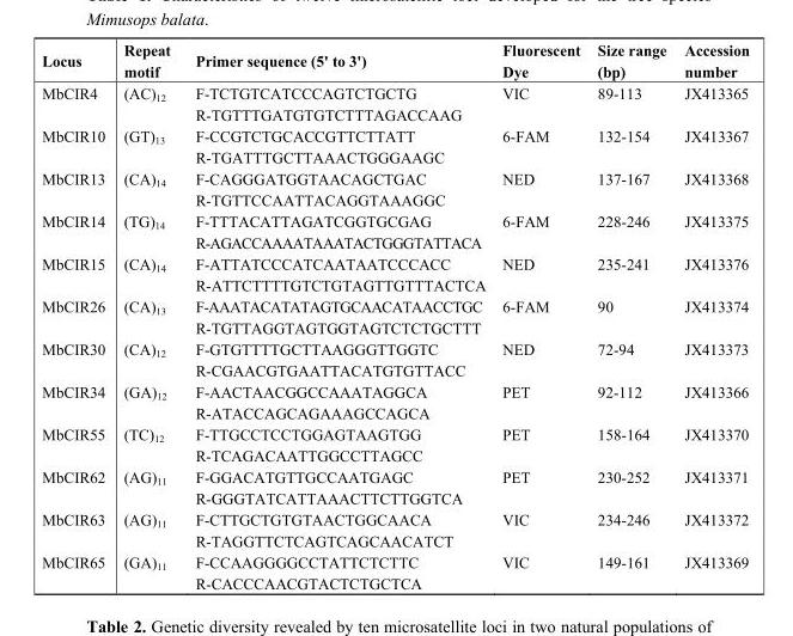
<table><thead><tr><td>Locus</td><td>Repeat motif</td><td>Primer sequence (5&#x27; to 3&#x27;)</td><td>Fluorescent Dye</td><td>Size range (bp)</td><td>Accession number</td></tr></thead><tbody><tr><td rowspan="2">MbCIR4</td><td rowspan="2">(AC)<sub>12</sub></td><td>F-TCTGTCATCCCAGTCTGCTG</td><td>VIC</td><td>89-113</td><td rowspan="2">JX413365</td></tr><tr><td>R-TGTTTGATGTGTCTTTAGACCAAG</td><td></td><td></td></tr><tr><td rowspan="2">MbCIR10</td><td rowspan="2">(GT)<sub>13</sub></td><td>F-CCGTCTGCACCGTTCTTATT</td><td>6-FAM</td><td>132-154</td><td rowspan="2">JX413367</td></tr><tr><td>R-TGATTTGCTTAAACTGGGAAGC</td><td></td><td></td></tr><tr><td rowspan="2">MbCIR13</td><td rowspan="2">(CA)<sub>14</sub></td><td>F-CAGGGATGGTAACAGCTGAC</td><td>NED</td><td>137-167</td><td rowspan="2">JX413368</td></tr><tr><td>R-TGTTCCAATTACAGGTAAAGGC</td><td></td><td></td></tr><tr><td rowspan="2">MbCIR14</td><td rowspan="2">(TG)<sub>14</sub></td><td>F-TTTACATTAGATCGGTGCGAG</td><td>6-FAM</td><td>228-246</td><td rowspan="2">JX413375</td></tr><tr><td>R-AGACCAAAATAAATACTGGGTATTACA</td><td></td><td></td></tr><tr><td rowspan="2">MbCIR15</td><td rowspan="2">(CA)<sub>14</sub></td><td>F-ATTATCCCATCAATAATCCCACC</td><td>NED</td><td>235-241</td><td rowspan="2">JX413376</td></tr><tr><td>R-ATTCTTTTGTCTGTAGTTGTTTACTCA</td><td></td><td></td></tr><tr><td rowspan="2">MbCIR26</td><td rowspan="2">(CA)<sub>13</sub></td><td>F-AAATACATATAGTGCAACATAACCTGC</td><td>6-FAM</td><td>90</td><td rowspan="2">JX413374</td></tr><tr><td>R-TGTTAGGTAGTGGTAGTCTCTGCTTT</td><td></td><td></td></tr><tr><td rowspan="2">MbCIR30</td><td rowspan="2">(CA)<sub>12</sub></td><td>F-GTGTTTTGCTTAAGGGTTGGTC</td><td>NED</td><td>72-94</td><td rowspan="2">JX413373</td></tr><tr><td>R-CGAACGTGAATTACATGTGTTACC</td><td></td><td></td></tr><tr><td rowspan="2">MbCIR34</td><td rowspan="2">(GA)<sub>12</sub></td><td>F-AACTAACGGCCAAATAGGCA</td><td>PET</td><td>92-112</td><td rowspan="2">JX413366</td></tr><tr><td>R-ATACCAGCAGAAAGCCAGCA</td><td></td><td></td></tr><tr><td rowspan="2">MbCIR55</td><td rowspan="2">(TC)<sub>12</sub></td><td>F-TTGCCTCCTGGAGTAAGTGG</td><td>PET</td><td>158-164</td><td rowspan="2">JX413370</td></tr><tr><td>R-TCAGACAATTGGCCTTAGCC</td><td></td><td></td></tr><tr><td rowspan="2">MbCIR62</td><td rowspan="2">(AG)<sub>11</sub></td><td>F-GGACATGTTGCCAATGAGC</td><td>PET</td><td>230-252</td><td rowspan="2">JX413371</td></tr><tr><td>R-GGGTATCATTAAACTTCTTGGTCA</td><td></td><td></td></tr><tr><td rowspan="2">MbCIR63</td><td rowspan="2">(AG)<sub>11</sub></td><td>F-CTTGCTGTGTAACTGGCAACA</td><td>VIC</td><td>234-246</td><td rowspan="2">JX413372</td></tr><tr><td>R-TAGGTTCTCAGTCAGCAACATCT</td><td></td><td></td></tr><tr><td rowspan="2">MbCIR65</td><td rowspan="2">(GA)<sub>11</sub></td><td>F-CCAAGGGGCCTATTCTCTTC</td><td>VIC</td><td>149-161</td><td rowspan="2">JX413369</td></tr><tr><td>R-CACCCAACGTACTCTGCTCA</td><td></td><td></td></tr></tbody></table>